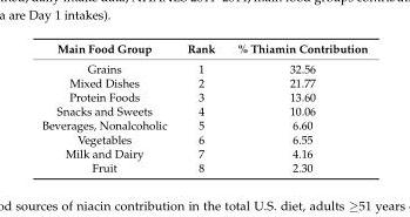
<table><thead><tr><td>Main Food Group</td><td>Rank</td><td>% Thiamin Contribution</td></tr></thead><tbody><tr><td>Grains</td><td>1</td><td>32.56</td></tr><tr><td>Mixed Dishes</td><td>2</td><td>21.77</td></tr><tr><td>Protein Foods</td><td>3</td><td>13.60</td></tr><tr><td>Snacks and Sweets</td><td>4</td><td>10.06</td></tr><tr><td>Beverages, Nonalcoholic</td><td>5</td><td>6.60</td></tr><tr><td>Vegetables</td><td>6</td><td>6.55</td></tr><tr><td>Milk and Dairy</td><td>7</td><td>4.16</td></tr><tr><td>Fruit</td><td>8</td><td>2.30</td></tr></tbody></table>